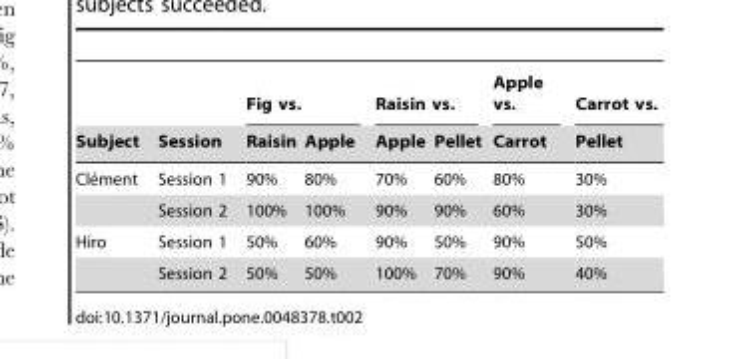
<table><thead><tr><td rowspan="2">Subject</td><td rowspan="2">Session</td><td colspan="2">Fig vs.</td><td colspan="2">Raisin vs.</td><td rowspan="2">Apple vs. Carrot</td><td rowspan="2">Carrot vs. Pellet</td></tr><tr><td>Raisin</td><td>Apple</td><td>Apple</td><td>Pellet</td></tr></thead><tbody><tr><td rowspan="2">Cle´ment</td><td>Session 1</td><td>90%</td><td>80%</td><td>70%</td><td>60%</td><td>80%</td><td>30%</td></tr><tr><td>Session 2</td><td>100%</td><td>100%</td><td>90%</td><td>90%</td><td>60%</td><td>30%</td></tr><tr><td rowspan="2">Hiro</td><td>Session 1</td><td>50%</td><td>60%</td><td>90%</td><td>50%</td><td>90%</td><td>50%</td></tr><tr><td>Session 2</td><td>50%</td><td>50%</td><td>100%</td><td>70%</td><td>90%</td><td>40%</td></tr></tbody></table>